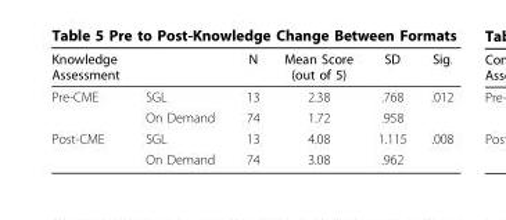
<table><thead><tr><td>Knowledge Assessment</td><td></td><td>N</td><td>Mean Score (out of 5)</td><td>SD</td><td>Sig.</td></tr></thead><tbody><tr><td rowspan="2">Pre-CME</td><td>SGL</td><td>13</td><td>2.38</td><td>.768</td><td>.012</td></tr><tr><td>On Demand</td><td>74</td><td>1.72</td><td>.958</td><td></td></tr><tr><td rowspan="2">Post-CME</td><td>SGL</td><td>13</td><td>4.08</td><td>1.115</td><td>.008</td></tr><tr><td>On Demand</td><td>74</td><td>3.08</td><td>.962</td><td></td></tr></tbody></table>